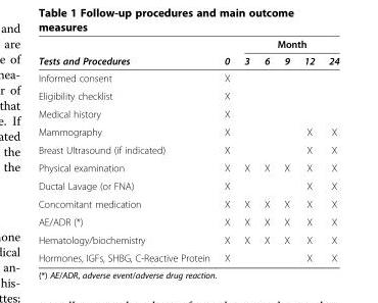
<table><thead><tr><td rowspan="2">Tests and Procedures</td><td rowspan="2">0</td><td colspan="5">Month</td></tr><tr><td>3</td><td>6</td><td>9</td><td>12</td><td>24</td></tr></thead><tbody><tr><td>Informed consent</td><td>X</td><td></td><td></td><td></td><td></td><td></td></tr><tr><td>Eligibility checklist</td><td>X</td><td></td><td></td><td></td><td></td><td></td></tr><tr><td>Medical history</td><td>X</td><td></td><td></td><td></td><td></td><td></td></tr><tr><td>Mammography</td><td>X</td><td></td><td></td><td></td><td>X</td><td>X</td></tr><tr><td>Breast Ultrasound (if indicated)</td><td>X</td><td></td><td></td><td></td><td>X</td><td>X</td></tr><tr><td>Physical examination</td><td>X</td><td>X</td><td>X</td><td>X</td><td>X</td><td>X</td></tr><tr><td>Ductal Lavage (or FNA)</td><td>X</td><td></td><td></td><td></td><td>X</td><td>X</td></tr><tr><td>Concomitant medication</td><td>X</td><td>X</td><td>X</td><td>X</td><td>X</td><td>X</td></tr><tr><td>AE/ADR (*)</td><td>X</td><td>X</td><td>X</td><td>X</td><td>X</td><td>X</td></tr><tr><td>Hematology/biochemistry</td><td>X</td><td>X</td><td>X</td><td>X</td><td>X</td><td>X</td></tr><tr><td>Hormones, IGFs, SHBG, C-Reactive Protein</td><td>X</td><td></td><td></td><td></td><td>X</td><td>X</td></tr></tbody></table>